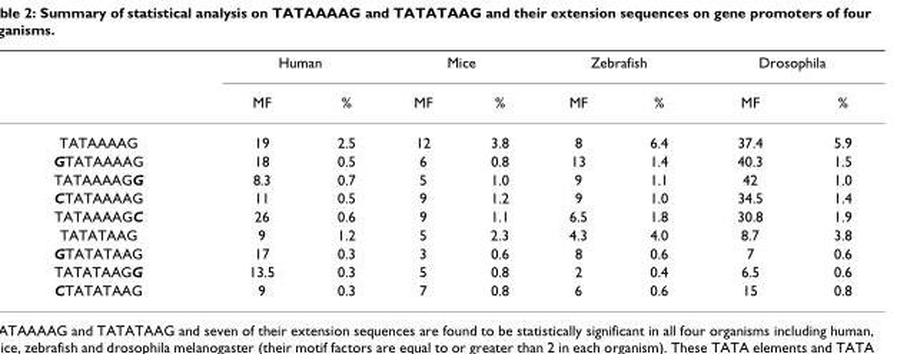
<table><thead><tr><td rowspan="2"></td><td colspan="2">Human</td><td colspan="2">Mice</td><td colspan="2">Zebrafish</td><td colspan="2">Drosophila</td></tr><tr><td>MF</td><td>%</td><td>MF</td><td>%</td><td>MF</td><td>%</td><td>MF</td><td>%</td></tr></thead><tbody><tr><td>TATAAAAG</td><td>19</td><td>2.5</td><td>12</td><td>3.8</td><td>8</td><td>6.4</td><td>37.4</td><td>5.9</td></tr><tr><td>GTATAAAAG</td><td>18</td><td>0.5</td><td>6</td><td>0.8</td><td>13</td><td>1.4</td><td>40.3</td><td>1.5</td></tr><tr><td>TATAAAAGG</td><td>8.3</td><td>0.7</td><td>5</td><td>1.0</td><td>9</td><td>1.1</td><td>42</td><td>1.0</td></tr><tr><td>CTATAAAAG</td><td>11</td><td>0.5</td><td>9</td><td>1.2</td><td>9</td><td>1.0</td><td>34.5</td><td>1.4</td></tr><tr><td>TATAAAAGC</td><td>26</td><td>0.6</td><td>9</td><td>1.1</td><td>6.5</td><td>1.8</td><td>30.8</td><td>1.9</td></tr><tr><td>TATATAAG</td><td>9</td><td>1.2</td><td>5</td><td>2.3</td><td>4.3</td><td>4.0</td><td>8.7</td><td>3.8</td></tr><tr><td>GTATATAAG</td><td>17</td><td>0.3</td><td>3</td><td>0.6</td><td>8</td><td>0.6</td><td>7</td><td>0.6</td></tr><tr><td>TATATAAGG</td><td>13.5</td><td>0.3</td><td>5</td><td>0.8</td><td>2</td><td>0.4</td><td>6.5</td><td>0.6</td></tr><tr><td>CTATATAAG</td><td>9</td><td>0.3</td><td>7</td><td>0.8</td><td>6</td><td>0.6</td><td>15</td><td>0.8</td></tr></tbody></table>